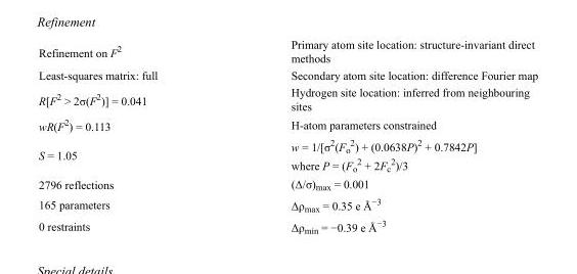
<table><tbody><tr><td>Refinement on F<sup>2</sup></td><td>Primary atom site location: structure-invariant direct methods</td></tr><tr><td>Least-squares matrix: full</td><td>Secondary atom site location: difference Fourier map</td></tr><tr><td>R[F<sup>2</sup> &gt; 2σ(F<sup>2</sup>)] = 0.041</td><td>Hydrogen site location: inferred from neighbouring sites</td></tr><tr><td>wR(F<sup>2</sup>) = 0.113</td><td>H-atom parameters constrained</td></tr><tr><td>S = 1.05</td><td>w = 1/[σ<sup>2</sup>(F<sub>o</sub> <sup>2</sup>) + (0.0638P)<sup>2</sup> + 0.7842P] where P = (F<sub>o</sub> <sup>2</sup> + 2F<sub>c</sub> <sup>2</sup>)/3</td></tr><tr><td>2796 reflections</td><td>(Δ/σ)<sub>max</sub> = 0.001</td></tr><tr><td>165 parameters</td><td>Δρ<sub>max</sub> = 0.35 e Å<sup>−3</sup></td></tr><tr><td>0 restraints</td><td>Δρ<sub>min</sub> = −0.39 e Å<sup>−3</sup></td></tr></tbody></table>